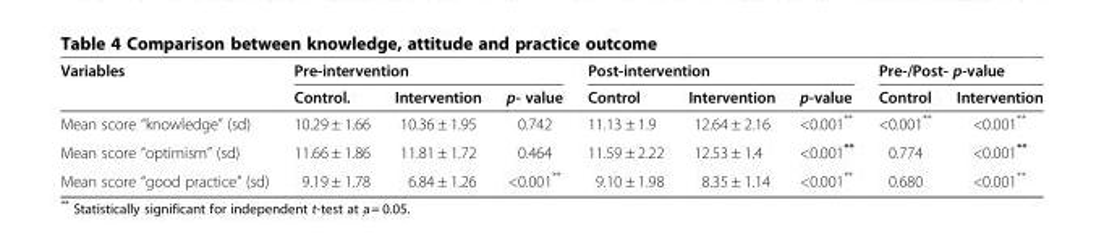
<table><thead><tr><td rowspan="2">Variables</td><td colspan="3">Pre-intervention</td><td colspan="3">Post-intervention</td><td colspan="2">Pre-/Post- p-value</td></tr><tr><td>Control.</td><td>Intervention</td><td>p- value</td><td>Control</td><td>Intervention</td><td>p-value</td><td>Control</td><td>Intervention</td></tr></thead><tbody><tr><td>Mean score “knowledge” (sd)</td><td>10.29 ± 1.66</td><td>10.36 ± 1.95</td><td>0.742</td><td>11.13 ± 1.9</td><td>12.64 ± 2.16</td><td>&lt;0.001**</td><td>&lt;0.001**</td><td>&lt;0.001**</td></tr><tr><td>Mean score “optimism” (sd)</td><td>11.66 ± 1.86</td><td>11.81 ± 1.72</td><td>0.464</td><td>11.59 ± 2.22</td><td>12.53 ± 1.4</td><td>&lt;0.001**</td><td>0.774</td><td>&lt;0.001**</td></tr><tr><td>Mean score “good practice” (sd)</td><td>9.19 ± 1.78</td><td>6.84 ± 1.26</td><td>&lt;0.001**</td><td>9.10 ± 1.98</td><td>8.35 ± 1.14</td><td>&lt;0.001**</td><td>0.680</td><td>&lt;0.001**</td></tr></tbody></table>